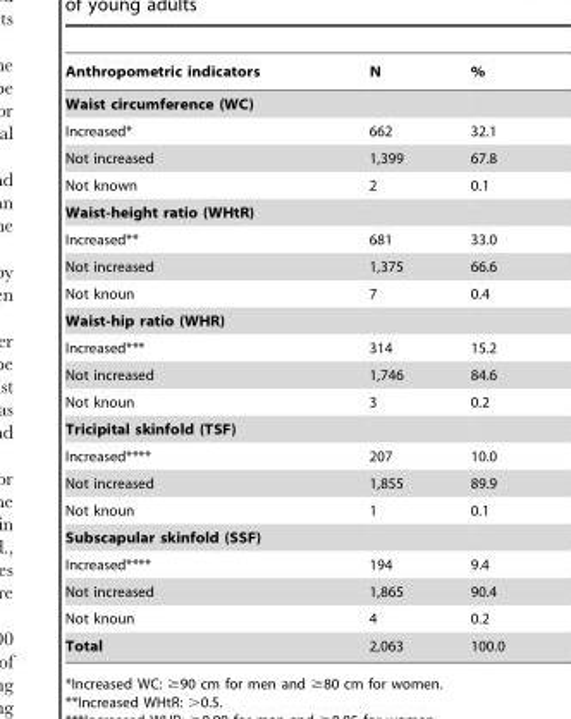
<table><thead><tr><td>Anthropometric indicators</td><td>N</td><td>%</td></tr></thead><tbody><tr><td colspan="3">Waist circumference (WC)</td></tr><tr><td>Increased*</td><td>662</td><td>32.1</td></tr><tr><td>Not increased</td><td>1,399</td><td>67.8</td></tr><tr><td>Not known</td><td>2</td><td>0.1</td></tr><tr><td colspan="3">Waist-height ratio (WHtR)</td></tr><tr><td>Increased**</td><td>681</td><td>33.0</td></tr><tr><td>Not increased</td><td>1,375</td><td>66.6</td></tr><tr><td>Not knoun</td><td>7</td><td>0.4</td></tr><tr><td colspan="3">Waist-hip ratio (WHR)</td></tr><tr><td>Increased***</td><td>314</td><td>15.2</td></tr><tr><td>Not increased</td><td>1,746</td><td>84.6</td></tr><tr><td>Not knoun</td><td>3</td><td>0.2</td></tr><tr><td colspan="3">Tricipital skinfold (TSF)</td></tr><tr><td>Increased****</td><td>207</td><td>10.0</td></tr><tr><td>Not increased</td><td>1,855</td><td>89.9</td></tr><tr><td>Not knoun</td><td>1</td><td>0.1</td></tr><tr><td colspan="3">Subscapular skinfold (SSF)</td></tr><tr><td>Increased****</td><td>194</td><td>9.4</td></tr><tr><td>Not increased</td><td>1,865</td><td>90.4</td></tr><tr><td>Not knoun</td><td>4</td><td>0.2</td></tr><tr><td>Total</td><td>2,063</td><td>100.0</td></tr></tbody></table>